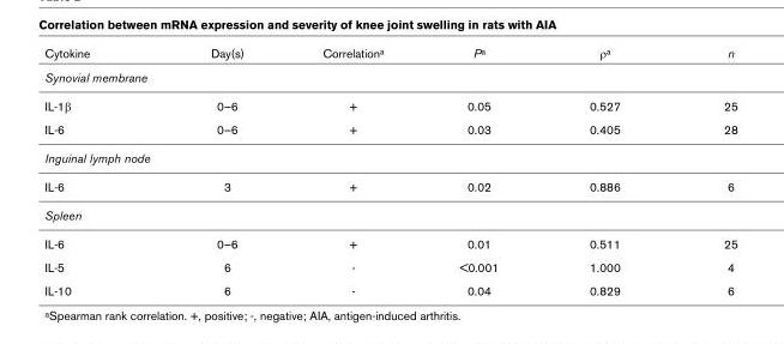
<table><thead><tr><td>Cytokine</td><td>Day(s)</td><td>Correlationa</td><td>Pa</td><td>ρa</td><td>n</td></tr></thead><tbody><tr><td colspan="6">Synovial membrane</td></tr><tr><td>IL-1β</td><td>0–6</td><td>+</td><td>0.05</td><td>0.527</td><td>25</td></tr><tr><td>IL-6</td><td>0–6</td><td>+</td><td>0.03</td><td>0.405</td><td>28</td></tr><tr><td colspan="6">Inguinal lymph node</td></tr><tr><td>IL-6</td><td>3</td><td>+</td><td>0.02</td><td>0.886</td><td>6</td></tr><tr><td colspan="6">Spleen</td></tr><tr><td>IL-6</td><td>0–6</td><td>+</td><td>0.01</td><td>0.511</td><td>25</td></tr><tr><td>IL-5</td><td>6</td><td>-</td><td>&lt;0.001</td><td>1.000</td><td>4</td></tr><tr><td>IL-10</td><td>6</td><td>-</td><td>0.04</td><td>0.829</td><td>6</td></tr></tbody></table>